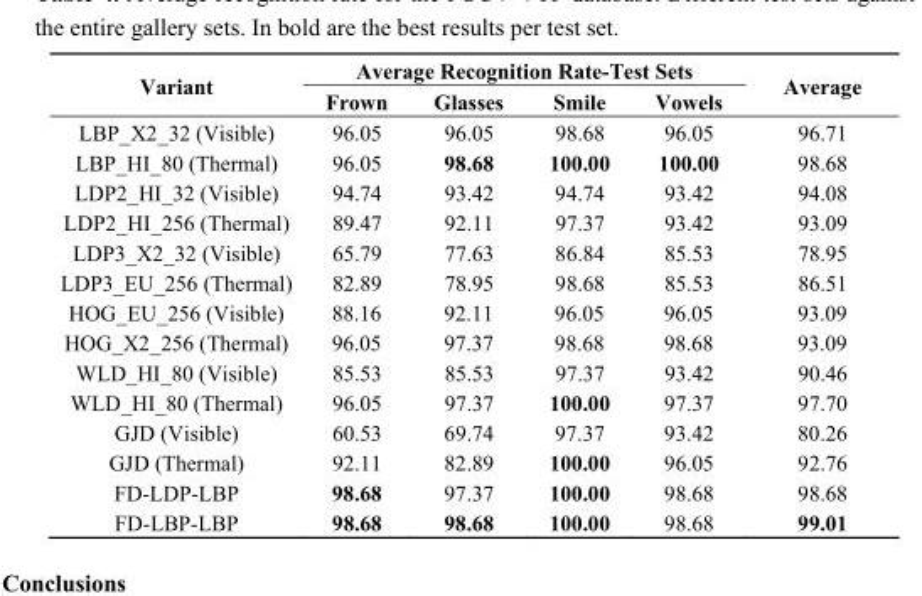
<table><thead><tr><td rowspan="2">Variant</td><td colspan="4">Average Recognition Rate-Test Sets</td><td rowspan="2">Average</td></tr><tr><td>Frown</td><td>Glasses</td><td>Smile</td><td>Vowels</td></tr></thead><tbody><tr><td>LBP_X2_32 (Visible)</td><td>96.05</td><td>96.05</td><td>98.68</td><td>96.05</td><td>96.71</td></tr><tr><td>LBP_HI_80 (Thermal)</td><td>96.05</td><td>98.68</td><td>100.00</td><td>100.00</td><td>98.68</td></tr><tr><td>LDP2_HI_32 (Visible)</td><td>94.74</td><td>93.42</td><td>94.74</td><td>93.42</td><td>94.08</td></tr><tr><td>LDP2_HI_256 (Thermal)</td><td>89.47</td><td>92.11</td><td>97.37</td><td>93.42</td><td>93.09</td></tr><tr><td>LDP3_X2_32 (Visible)</td><td>65.79</td><td>77.63</td><td>86.84</td><td>85.53</td><td>78.95</td></tr><tr><td>LDP3_EU_256 (Thermal)</td><td>82.89</td><td>78.95</td><td>98.68</td><td>85.53</td><td>86.51</td></tr><tr><td>HOG_EU_256 (Visible)</td><td>88.16</td><td>92.11</td><td>96.05</td><td>96.05</td><td>93.09</td></tr><tr><td>HOG_X2_256 (Thermal)</td><td>96.05</td><td>97.37</td><td>98.68</td><td>98.68</td><td>93.09</td></tr><tr><td>WLD_HI_80 (Visible)</td><td>85.53</td><td>85.53</td><td>97.37</td><td>93.42</td><td>90.46</td></tr><tr><td>WLD_HI_80 (Thermal)</td><td>96.05</td><td>97.37</td><td>100.00</td><td>97.37</td><td>97.70</td></tr><tr><td>GJD (Visible)</td><td>60.53</td><td>69.74</td><td>97.37</td><td>93.42</td><td>80.26</td></tr><tr><td>GJD (Thermal)</td><td>92.11</td><td>82.89</td><td>100.00</td><td>96.05</td><td>92.76</td></tr><tr><td>FD-LDP-LBP</td><td>98.68</td><td>97.37</td><td>100.00</td><td>98.68</td><td>98.68</td></tr><tr><td>FD-LBP-LBP</td><td>98.68</td><td>98.68</td><td>100.00</td><td>98.68</td><td>99.01</td></tr></tbody></table>